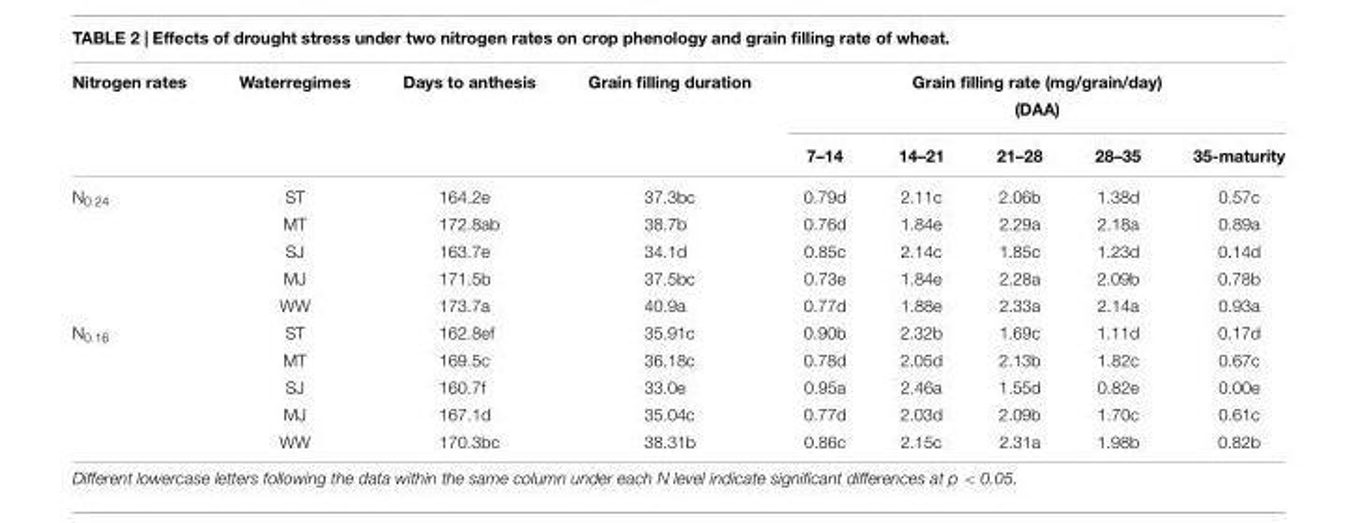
<table><thead><tr><td rowspan="3">Nitrogen rates</td><td rowspan="3">Waterregimes</td><td rowspan="3">Days to anthesis</td><td rowspan="3">Grain filling duration</td><td rowspan="2" colspan="5">Grain filling rate (mg/grain/day) (DAA)</td></tr><tr></tr><tr><td>7–14</td><td>14–21</td><td>21–28</td><td>28–35</td><td>35-maturity</td></tr></thead><tbody><tr><td rowspan="5">N<sub>0.24</sub></td><td>ST</td><td>164.2e</td><td>37.3bc</td><td>0.79d</td><td>2.11c</td><td>2.06b</td><td>1.38d</td><td>0.57c</td></tr><tr><td>MT</td><td>172.8ab</td><td>38.7b</td><td>0.76d</td><td>1.84e</td><td>2.29a</td><td>2.18a</td><td>0.89a</td></tr><tr><td>SJ</td><td>163.7e</td><td>34.1d</td><td>0.85c</td><td>2.14c</td><td>1.85c</td><td>1.23d</td><td>0.14d</td></tr><tr><td>MJ</td><td>171.5b</td><td>37.5bc</td><td>0.73e</td><td>1.84e</td><td>2.28a</td><td>2.09b</td><td>0.78b</td></tr><tr><td>WW</td><td>173.7a</td><td>40.9a</td><td>0.77d</td><td>1.88e</td><td>2.33a</td><td>2.14a</td><td>0.93a</td></tr><tr><td rowspan="5">N<sub>0.16</sub></td><td>ST</td><td>162.8ef</td><td>35.91c</td><td>0.90b</td><td>2.32b</td><td>1.69c</td><td>1.11d</td><td>0.17d</td></tr><tr><td>MT</td><td>169.5c</td><td>36.18c</td><td>0.78d</td><td>2.05d</td><td>2.13b</td><td>1.82c</td><td>0.67c</td></tr><tr><td>SJ</td><td>160.7f</td><td>33.0e</td><td>0.95a</td><td>2.46a</td><td>1.55d</td><td>0.82e</td><td>0.00e</td></tr><tr><td>MJ</td><td>167.1d</td><td>35.04c</td><td>0.77d</td><td>2.03d</td><td>2.09b</td><td>1.70c</td><td>0.61c</td></tr><tr><td>WW</td><td>170.3bc</td><td>38.31b</td><td>0.86c</td><td>2.15c</td><td>2.31a</td><td>1.98b</td><td>0.82b</td></tr></tbody></table>